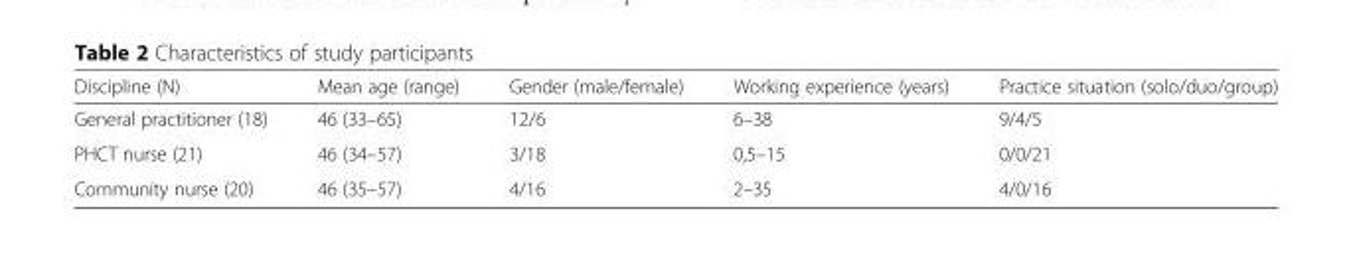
<table><thead><tr><td>Discipline (N)</td><td>Mean age (range)</td><td>Gender (male/female)</td><td>Working experience (years)</td><td>Practice situation (solo/duo/group)</td></tr></thead><tbody><tr><td>General practitioner (18)</td><td>46 (33–65)</td><td>12/6</td><td>6–38</td><td>9/4/5</td></tr><tr><td>PHCT nurse (21)</td><td>46 (34–57)</td><td>3/18</td><td>0,5–15</td><td>0/0/21</td></tr><tr><td>Community nurse (20)</td><td>46 (35–57)</td><td>4/16</td><td>2–35</td><td>4/0/16</td></tr></tbody></table>